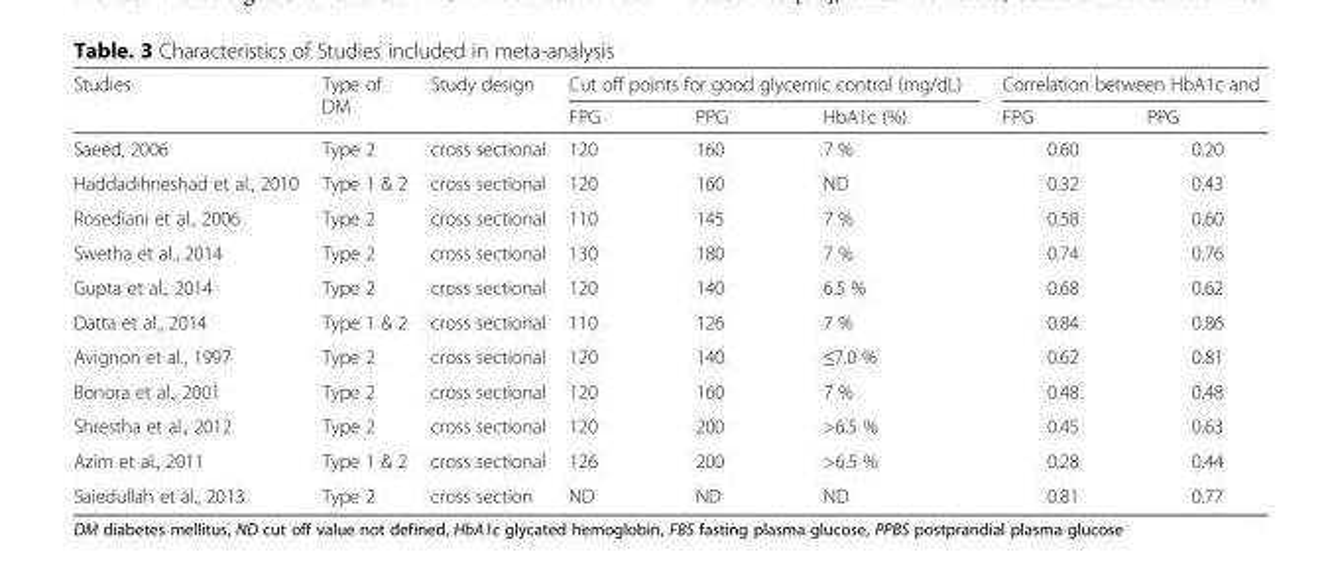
<table><thead><tr><td rowspan="2">Studies</td><td rowspan="2">Type of DM</td><td rowspan="2">Study design</td><td colspan="3">Cut off points for good glycemic control (mg/dL)</td><td colspan="2">Correlation between HbA1c and</td></tr><tr><td>FPG</td><td>PPG</td><td>HbA1c (%)</td><td>FPG</td><td>PPG</td></tr></thead><tbody><tr><td>Saeed, 2006</td><td>Type 2</td><td>cross sectional</td><td>120</td><td>160</td><td>7 %</td><td>0.60</td><td>0.20</td></tr><tr><td>Haddadihneshad et al., 2010</td><td>Type 1 &amp; 2</td><td>cross sectional</td><td>120</td><td>160</td><td>ND</td><td>0.32</td><td>0.43</td></tr><tr><td>Rosediani et al., 2006</td><td>Type 2</td><td>cross sectional</td><td>110</td><td>145</td><td>7 %</td><td>0.58</td><td>0.60</td></tr><tr><td>Swetha et al., 2014</td><td>Type 2</td><td>cross sectional</td><td>130</td><td>180</td><td>7 %</td><td>0.74</td><td>0.76</td></tr><tr><td>Gupta et al., 2014</td><td>Type 2</td><td>cross sectional</td><td>120</td><td>140</td><td>6.5 %</td><td>0.68</td><td>0.62</td></tr><tr><td>Datta et al., 2014</td><td>Type 1 &amp; 2</td><td>cross sectional</td><td>110</td><td>126</td><td>7 %</td><td>0.84</td><td>0.86</td></tr><tr><td>Avignon et al., 1997</td><td>Type 2</td><td>cross sectional</td><td>120</td><td>140</td><td>≤7.0 %</td><td>0.62</td><td>0.81</td></tr><tr><td>Bonora et al., 2001</td><td>Type 2</td><td>cross sectional</td><td>120</td><td>160</td><td>7 %</td><td>0.48</td><td>0.48</td></tr><tr><td>Shrestha et al., 2012</td><td>Type 2</td><td>cross sectional</td><td>120</td><td>200</td><td>&gt;6.5 %</td><td>0.45</td><td>0.63</td></tr><tr><td>Azim et al., 2011</td><td>Type 1 &amp; 2</td><td>cross sectional</td><td>126</td><td>200</td><td>&gt;6.5 %</td><td>0.28</td><td>0.44</td></tr><tr><td>Saiedullah et al., 2013</td><td>Type 2</td><td>cross section</td><td>ND</td><td>ND</td><td>ND</td><td>0.81</td><td>0.77</td></tr></tbody></table>